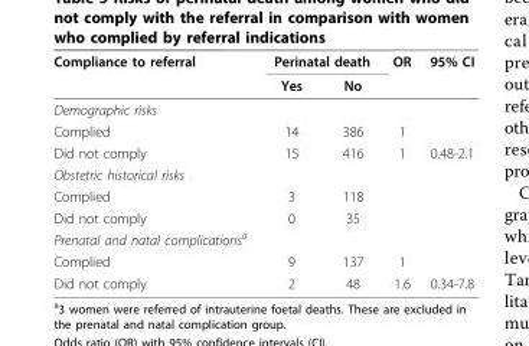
<table><thead><tr><td rowspan="2">Compliance to referral</td><td colspan="2">Perinatal death</td><td rowspan="2">OR</td><td rowspan="2">95% CI</td></tr><tr><td>Yes</td><td>No</td></tr></thead><tbody><tr><td colspan="5">Demographic risks</td></tr><tr><td>Complied</td><td>14</td><td>386</td><td>1</td><td></td></tr><tr><td>Did not comply</td><td>15</td><td>416</td><td>1</td><td>0.48-2.1</td></tr><tr><td colspan="5">Obstetric historical risks</td></tr><tr><td>Complied</td><td>3</td><td>118</td><td></td><td></td></tr><tr><td>Did not comply</td><td>0</td><td>35</td><td></td><td></td></tr><tr><td colspan="5">Prenatal and natal complications<sup>a</sup></td></tr><tr><td>Complied</td><td>9</td><td>137</td><td>1</td><td></td></tr><tr><td>Did not comply</td><td>2</td><td>48</td><td>1.6</td><td>0.34-7.8</td></tr></tbody></table>